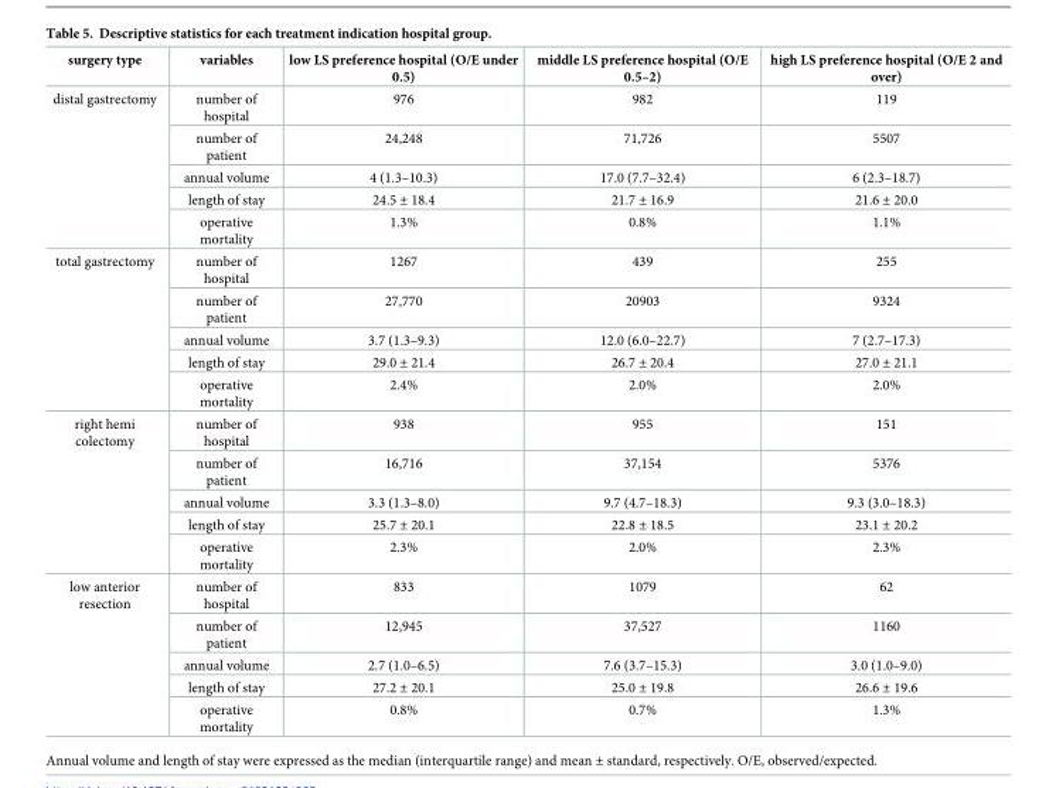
<table><thead><tr><td>surgery type</td><td>variables</td><td>low LS preference hospital (O/E under 0.5)</td><td>middle LS preference hospital (O/E 0.5–2)</td><td>high LS preference hospital (O/E 2 and over)</td></tr></thead><tbody><tr><td rowspan="5">distal gastrectomy</td><td>number of hospital</td><td>976</td><td>982</td><td>119</td></tr><tr><td>number of patient</td><td>24,248</td><td>71,726</td><td>5507</td></tr><tr><td>annual volume</td><td>4 (1.3–10.3)</td><td>17.0 (7.7–32.4)</td><td>6 (2.3–18.7)</td></tr><tr><td>length of stay</td><td>24.5 ± 18.4</td><td>21.7 ± 16.9</td><td>21.6 ± 20.0</td></tr><tr><td>operative mortality</td><td>1.3%</td><td>0.8%</td><td>1.1%</td></tr><tr><td rowspan="5">total gastrectomy</td><td>number of hospital</td><td>1267</td><td>439</td><td>255</td></tr><tr><td>number of patient</td><td>27,770</td><td>20903</td><td>9324</td></tr><tr><td>annual volume</td><td>3.7 (1.3–9.3)</td><td>12.0 (6.0–22.7)</td><td>7 (2.7–17.3)</td></tr><tr><td>length of stay</td><td>29.0 ± 21.4</td><td>26.7 ± 20.4</td><td>27.0 ± 21.1</td></tr><tr><td>operative mortality</td><td>2.4%</td><td>2.0%</td><td>2.0%</td></tr><tr><td rowspan="5">right hemi colectomy</td><td>number of hospital</td><td>938</td><td>955</td><td>151</td></tr><tr><td>number of patient</td><td>16,716</td><td>37,154</td><td>5376</td></tr><tr><td>annual volume</td><td>3.3 (1.3–8.0)</td><td>9.7 (4.7–18.3)</td><td>9.3 (3.0–18.3)</td></tr><tr><td>length of stay</td><td>25.7 ± 20.1</td><td>22.8 ± 18.5</td><td>23.1 ± 20.2</td></tr><tr><td>operative mortality</td><td>2.3%</td><td>2.0%</td><td>2.3%</td></tr><tr><td rowspan="5">low anterior resection</td><td>number of hospital</td><td>833</td><td>1079</td><td>62</td></tr><tr><td>number of patient</td><td>12,945</td><td>37,527</td><td>1160</td></tr><tr><td>annual volume</td><td>2.7 (1.0–6.5)</td><td>7.6 (3.7–15.3)</td><td>3.0 (1.0–9.0)</td></tr><tr><td>length of stay</td><td>27.2 ± 20.1</td><td>25.0 ± 19.8</td><td>26.6 ± 19.6</td></tr><tr><td>operative mortality</td><td>0.8%</td><td>0.7%</td><td>1.3%</td></tr></tbody></table>